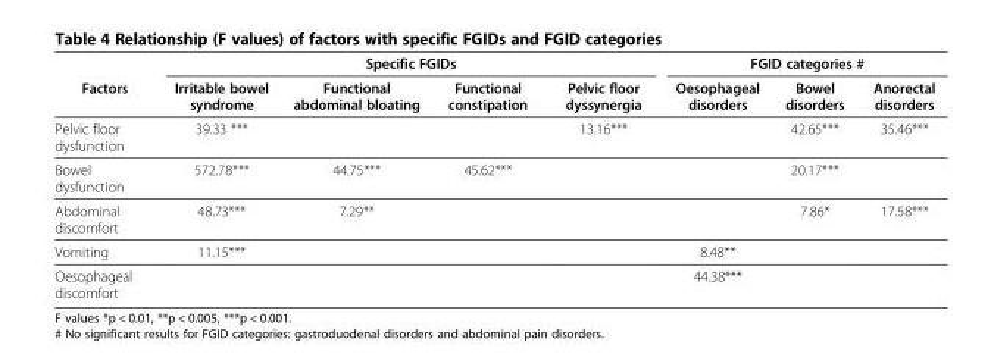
<table><thead><tr><td rowspan="2">Factors</td><td colspan="4">Specific FGIDs</td><td colspan="3">FGID categories #</td></tr><tr><td>Irritable bowel syndrome</td><td>Functional abdominal bloating</td><td>Functional constipation</td><td>Pelvic floor dyssynergia</td><td>Oesophageal disorders</td><td>Bowel disorders</td><td>Anorectal disorders</td></tr></thead><tbody><tr><td>Pelvic floor dysfunction</td><td>39.33 ***</td><td></td><td></td><td>13.16***</td><td></td><td>42.65***</td><td>35.46***</td></tr><tr><td>Bowel dysfunction</td><td>572.78***</td><td>44.75***</td><td>45.62***</td><td></td><td></td><td>20.17***</td><td></td></tr><tr><td>Abdominal discomfort</td><td>48.73***</td><td>7.29**</td><td></td><td></td><td></td><td>7.86*</td><td>17.58***</td></tr><tr><td>Vomiting</td><td>11.15***</td><td></td><td></td><td></td><td>8.48**</td><td></td><td></td></tr><tr><td>Oesophageal discomfort</td><td></td><td></td><td></td><td></td><td>44.38***</td><td></td><td></td></tr></tbody></table>